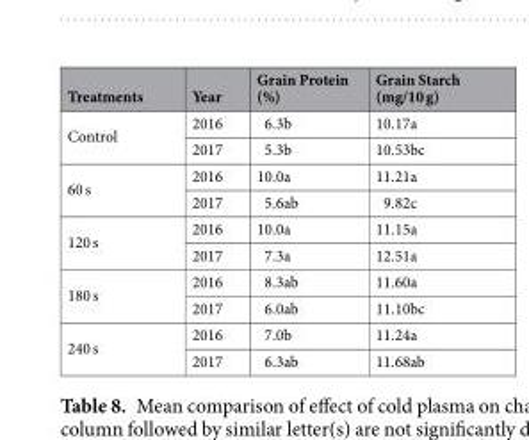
<table><thead><tr><td>Treatments</td><td>Year</td><td>Grain Protein (%)</td><td>Grain Starch (mg/10 g)</td></tr></thead><tbody><tr><td rowspan="2">Control</td><td>2016</td><td>6.3b</td><td>10.17a</td></tr><tr><td>2017</td><td>5.3b</td><td>10.53bc</td></tr><tr><td rowspan="2">60 s</td><td>2016</td><td>10.0a</td><td>11.21a</td></tr><tr><td>2017</td><td>5.6ab</td><td>9.82c</td></tr><tr><td rowspan="2">120 s</td><td>2016</td><td>10.0a</td><td>11.15a</td></tr><tr><td>2017</td><td>7.3a</td><td>12.51a</td></tr><tr><td rowspan="2">180 s</td><td>2016</td><td>8.3ab</td><td>11.60a</td></tr><tr><td>2017</td><td>6.0ab</td><td>11.10bc</td></tr><tr><td rowspan="2">240 s</td><td>2016</td><td>7.0b</td><td>11.24a</td></tr><tr><td>2017</td><td>6.3ab</td><td>11.68ab</td></tr></tbody></table>